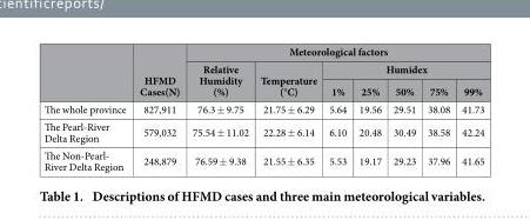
<table><thead><tr><td rowspan="3"></td><td rowspan="3">HFMD Cases(N)</td><td colspan="7">Meteorological factors</td></tr><tr><td rowspan="2">Relative Humidity (%)</td><td rowspan="2">Temperature (°C)</td><td colspan="5">Humidex</td></tr><tr><td>1%</td><td>25%</td><td>50%</td><td>75%</td><td>99%</td></tr></thead><tbody><tr><td>The whole province</td><td>827,911</td><td>76.3 ± 9.75</td><td>21.75 ± 6.29</td><td>5.64</td><td>19.56</td><td>29.51</td><td>38.08</td><td>41.73</td></tr><tr><td>The Pearl-River Delta Region</td><td>579,032</td><td>75.54 ± 11.02</td><td>22.28 ± 6.14</td><td>6.10</td><td>20.48</td><td>30.49</td><td>38.58</td><td>42.24</td></tr><tr><td>The Non-Pearl- River Delta Region</td><td>248,879</td><td>76.59 ± 9.38</td><td>21.55 ± 6.35</td><td>5.53</td><td>19.17</td><td>29.23</td><td>37.96</td><td>41.65</td></tr></tbody></table>